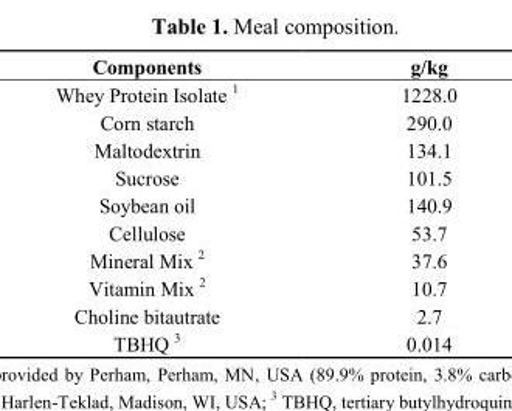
<table><thead><tr><td>Components</td><td>g/kg</td></tr></thead><tbody><tr><td>Whey Protein Isolate <sup>1</sup></td><td>1228.0</td></tr><tr><td>Corn starch</td><td>290.0</td></tr><tr><td>Maltodextrin</td><td>134.1</td></tr><tr><td>Sucrose</td><td>101.5</td></tr><tr><td>Soybean oil</td><td>140.9</td></tr><tr><td>Cellulose</td><td>53.7</td></tr><tr><td>Mineral Mix <sup>2</sup></td><td>37.6</td></tr><tr><td>Vitamin Mix <sup>2</sup></td><td>10.7</td></tr><tr><td>Choline bitautrate</td><td>2.7</td></tr><tr><td>TBHQ <sup>3</sup></td><td>0.014</td></tr></tbody></table>